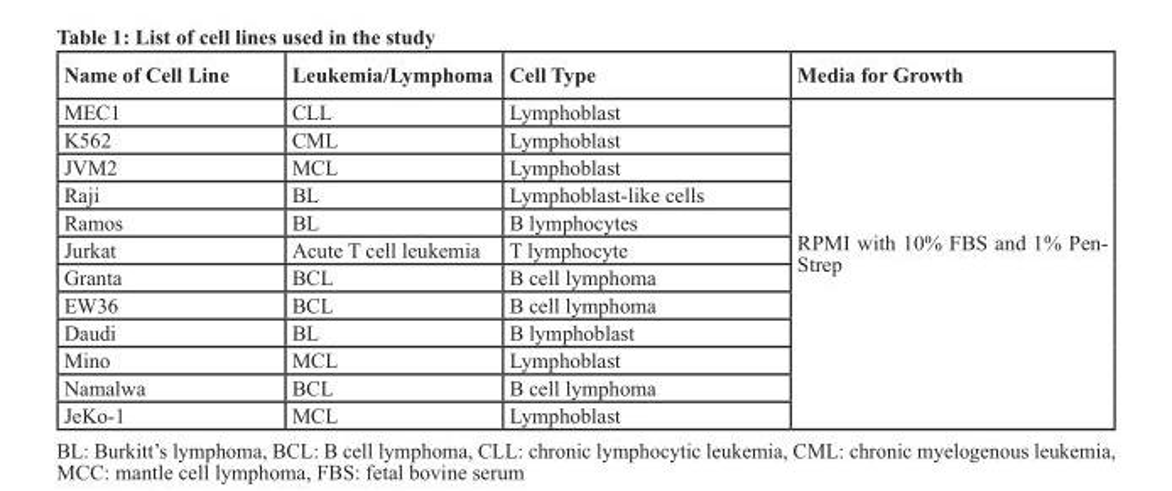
<table><thead><tr><td>Name of Cell Line</td><td>Leukemia/Lymphoma</td><td>Cell Type</td><td>Media for Growth</td></tr></thead><tbody><tr><td>MEC1</td><td>CLL</td><td>Lymphoblast</td><td rowspan="12">RPMI with 10% FBS and 1% Pen- Strep</td></tr><tr><td>K562</td><td>CML</td><td>Lymphoblast</td></tr><tr><td>JVM2</td><td>MCL</td><td>Lymphoblast</td></tr><tr><td>Raji</td><td>BL</td><td>Lymphoblast-like cells</td></tr><tr><td>Ramos</td><td>BL</td><td>B lymphocytes</td></tr><tr><td>Jurkat</td><td>Acute T cell leukemia</td><td>T lymphocyte</td></tr><tr><td>Granta</td><td>BCL</td><td>B cell lymphoma</td></tr><tr><td>EW36</td><td>BCL</td><td>B cell lymphoma</td></tr><tr><td>Daudi</td><td>BL</td><td>B lymphoblast</td></tr><tr><td>Mino</td><td>MCL</td><td>Lymphoblast</td></tr><tr><td>Namalwa</td><td>BCL</td><td>B cell lymphoma</td></tr><tr><td>JeKo-1</td><td>MCL</td><td>Lymphoblast</td></tr></tbody></table>